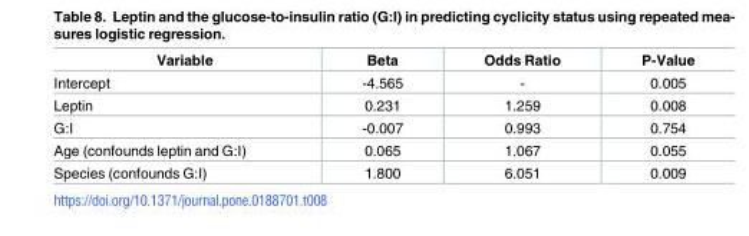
<table><thead><tr><td>Variable</td><td>Beta</td><td>Odds Ratio</td><td>P-Value</td></tr></thead><tbody><tr><td>Intercept</td><td>-4.565</td><td>-</td><td>0.005</td></tr><tr><td>Leptin</td><td>0.231</td><td>1.259</td><td>0.008</td></tr><tr><td>G:I</td><td>-0.007</td><td>0.993</td><td>0.754</td></tr><tr><td>Age (confounds leptin and G:I)</td><td>0.065</td><td>1.067</td><td>0.055</td></tr><tr><td>Species (confounds G:I)</td><td>1.800</td><td>6.051</td><td>0.009</td></tr></tbody></table>